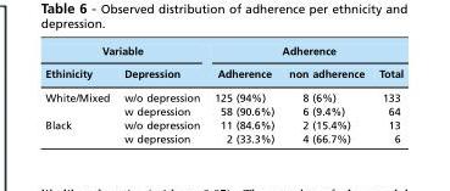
<table><thead><tr><td colspan="2">Variable</td><td colspan="3">Adherence</td></tr><tr><td>Ethinicity</td><td>Depression</td><td>Adherence</td><td>non adherence</td><td>Total</td></tr></thead><tbody><tr><td rowspan="2">White/Mixed</td><td>w/o depression</td><td>125 (94%)</td><td>8 (6%)</td><td>133</td></tr><tr><td>w depression</td><td>58 (90.6%)</td><td>6 (9.4%)</td><td>64</td></tr><tr><td rowspan="2">Black</td><td>w/o depression</td><td>11 (84.6%)</td><td>2 (15.4%)</td><td>13</td></tr><tr><td>w depression</td><td>2 (33.3%)</td><td>4 (66.7%)</td><td>6</td></tr></tbody></table>